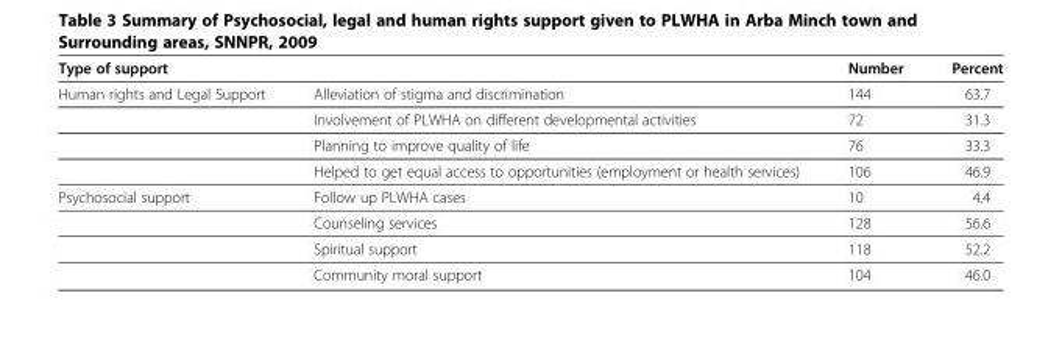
<table><thead><tr><td>Type of support</td><td></td><td>Number</td><td>Percent</td></tr></thead><tbody><tr><td rowspan="4">Human rights and Legal Support</td><td>Alleviation of stigma and discrimination</td><td>144</td><td>63.7</td></tr><tr><td>Involvement of PLWHA on different developmental activities</td><td>72</td><td>31.3</td></tr><tr><td>Planning to improve quality of life</td><td>76</td><td>33.3</td></tr><tr><td>Helped to get equal access to opportunities (employment or health services)</td><td>106</td><td>46.9</td></tr><tr><td rowspan="4">Psychosocial support</td><td>Follow up PLWHA cases</td><td>10</td><td>4.4</td></tr><tr><td>Counseling services</td><td>128</td><td>56.6</td></tr><tr><td>Spiritual support</td><td>118</td><td>52.2</td></tr><tr><td>Community moral support</td><td>104</td><td>46.0</td></tr></tbody></table>